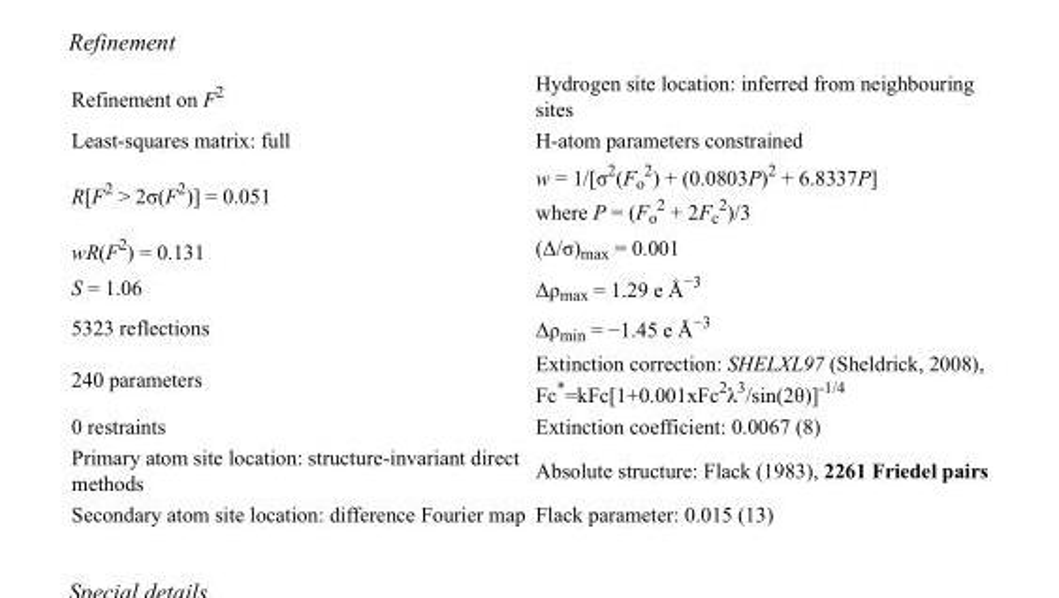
<table><tbody><tr><td>Refinement on F<sup>2</sup></td><td>Hydrogen site location: inferred from neighbouring sites</td></tr><tr><td>Least-squares matrix: full</td><td>H-atom parameters constrained</td></tr><tr><td>R[F<sup>2</sup> &gt; 2σ(F<sup>2</sup>)] = 0.051</td><td>w = 1/[σ<sup>2</sup>(F<sub>o</sub> <sup>2</sup>) + (0.0803P)<sup>2</sup> + 6.8337P] where P = (F<sub>o</sub> <sup>2</sup> + 2F<sub>c</sub> <sup>2</sup>)/3</td></tr><tr><td>wR(F<sup>2</sup>) = 0.131</td><td>(Δ/σ)<sub>max</sub> = 0.001</td></tr><tr><td>S = 1.06</td><td>Δρ<sub>max</sub> = 1.29 e Å<sup>−3</sup></td></tr><tr><td>5323 reflections</td><td>Δρ<sub>min</sub> = −1.45 e Å<sup>−3</sup></td></tr><tr><td>240 parameters</td><td>Extinction correction: SHELXL97 (Sheldrick, 2008), Fc*=kFc[1+0.001xFc<sup>2</sup>λ<sup>3</sup>/sin(2θ)]<sup>-1/4</sup></td></tr><tr><td>0 restraints</td><td>Extinction coefficient: 0.0067 (8)</td></tr><tr><td>Primary atom site location: structure-invariant direct methods</td><td>Absolute structure: Flack (1983), 2261 Friedel pairs</td></tr><tr><td>Secondary atom site location: difference Fourier map</td><td>Flack parameter: 0.015 (13)</td></tr></tbody></table>